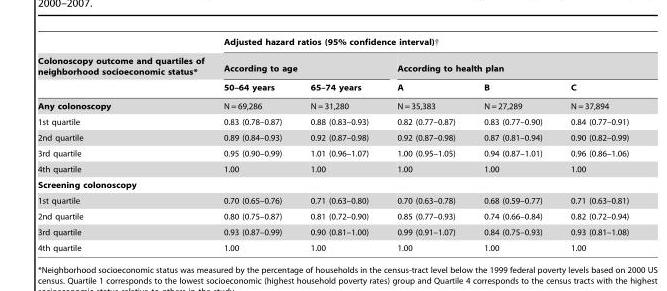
<table><thead><tr><td rowspan="3">Colonoscopy outcome and quartiles of neighborhood socioeconomic status*</td><td colspan="5">Adjusted hazard ratios (95% confidence interval)†</td></tr><tr><td colspan="2">According to age</td><td colspan="3">According to health plan</td></tr><tr><td>50–64 years</td><td>65–74 years</td><td>A</td><td>B</td><td>C</td></tr></thead><tbody><tr><td>Any colonoscopy</td><td>N = 69,286</td><td>N = 31,280</td><td>N = 35,383</td><td>N = 27,289</td><td>N = 37,894</td></tr><tr><td>1st quartile</td><td>0.83 (0.78–0.87)</td><td>0.88 (0.83–0.93)</td><td>0.82 (0.77–0.87)</td><td>0.83 (0.77–0.90)</td><td>0.84 (0.77–0.91)</td></tr><tr><td>2nd quartile</td><td>0.89 (0.84–0.93)</td><td>0.92 (0.87–0.98)</td><td>0.92 (0.87–0.98)</td><td>0.87 (0.81–0.94)</td><td>0.90 (0.82–0.99)</td></tr><tr><td>3rd quartile</td><td>0.95 (0.90–0.99)</td><td>1.01 (0.96–1.07)</td><td>1.00 (0.95–1.05)</td><td>0.94 (0.87–1.01)</td><td>0.96 (0.86–1.06)</td></tr><tr><td>4th quartile</td><td>1.00</td><td>1.00</td><td>1.00</td><td>1.00</td><td>1.00</td></tr><tr><td colspan="6">Screening colonoscopy</td></tr><tr><td>1st quartile</td><td>0.70 (0.65–0.76)</td><td>0.71 (0.63–0.80)</td><td>0.70 (0.63–0.78)</td><td>0.68 (0.59–0.77)</td><td>0.71 (0.63–0.81)</td></tr><tr><td>2nd quartile</td><td>0.80 (0.75–0.87)</td><td>0.81 (0.72–0.90)</td><td>0.85 (0.77–0.93)</td><td>0.74 (0.66–0.84)</td><td>0.82 (0.72–0.94)</td></tr><tr><td>3rd quartile</td><td>0.93 (0.87–0.99)</td><td>0.90 (0.81–1.00)</td><td>0.99 (0.91–1.07)</td><td>0.84 (0.75–0.93)</td><td>0.93 (0.81–1.08)</td></tr><tr><td>4th quartile</td><td>1.00</td><td>1.00</td><td>1.00</td><td>1.00</td><td>1.00</td></tr></tbody></table>